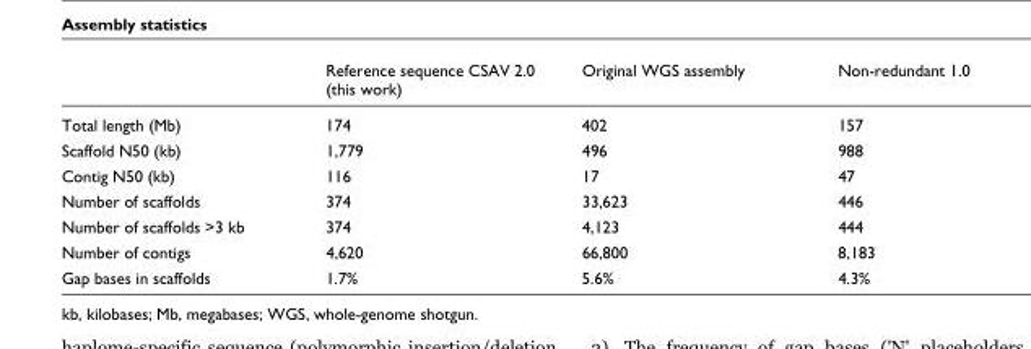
<table><thead><tr><td></td><td>Reference sequence CSAV 2.0 (this work)</td><td>Original WGS assembly</td><td>Non-redundant 1.0</td></tr></thead><tbody><tr><td>Total length (Mb)</td><td>174</td><td>402</td><td>157</td></tr><tr><td>Scaffold N50 (kb)</td><td>1,779</td><td>496</td><td>988</td></tr><tr><td>Contig N50 (kb)</td><td>116</td><td>17</td><td>47</td></tr><tr><td>Number of scaffolds</td><td>374</td><td>33,623</td><td>446</td></tr><tr><td>Number of scaffolds &gt;3 kb</td><td>374</td><td>4,123</td><td>444</td></tr><tr><td>Number of contigs</td><td>4,620</td><td>66,800</td><td>8,183</td></tr><tr><td>Gap bases in scaffolds</td><td>1.7%</td><td>5.6%</td><td>4.3%</td></tr></tbody></table>